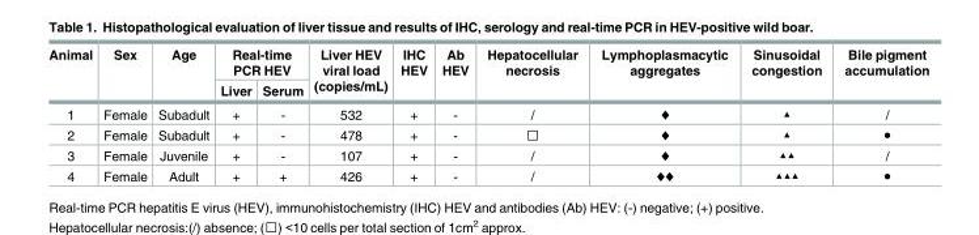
<table><thead><tr><td rowspan="2">Animal</td><td rowspan="2">Sex</td><td rowspan="2">Age</td><td colspan="2">Real-time PCR HEV</td><td rowspan="2">Liver HEV viral load (copies/mL)</td><td rowspan="2">IHC HEV</td><td rowspan="2">Ab HEV</td><td rowspan="2">Hepatocellular necrosis</td><td rowspan="2">Lymphoplasmacytic aggregates</td><td rowspan="2">Sinusoidal congestion</td><td rowspan="2">Bile pigment accumulation</td></tr><tr><td>Liver</td><td>Serum</td></tr></thead><tbody><tr><td>1</td><td>Female</td><td>Subadult</td><td>+</td><td>-</td><td>532</td><td>+</td><td>-</td><td>/</td><td>♦</td><td>▲</td><td>/</td></tr><tr><td>2</td><td>Female</td><td>Subadult</td><td>+</td><td>-</td><td>478</td><td>+</td><td>-</td><td>⸹</td><td>♦</td><td>▲</td><td>●</td></tr><tr><td>3</td><td>Female</td><td>Juvenile</td><td>+</td><td>-</td><td>107</td><td>+</td><td>-</td><td>/</td><td>♦</td><td>▲▲</td><td>/</td></tr><tr><td>4</td><td>Female</td><td>Adult</td><td>+</td><td>+</td><td>426</td><td>+</td><td>-</td><td>/</td><td>♦♦</td><td>▲▲▲</td><td>●</td></tr></tbody></table>